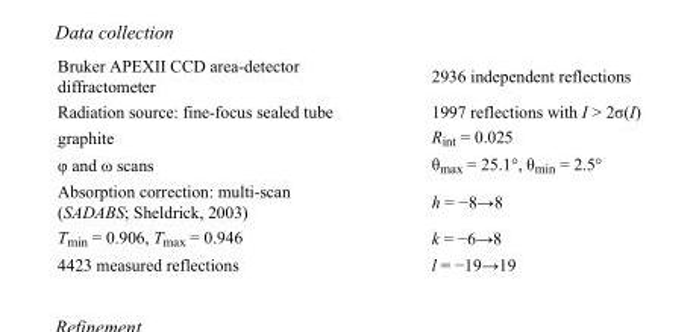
<table><tbody><tr><td>Bruker APEXII CCD area-detector diffractometer</td><td>2936 independent reflections</td></tr><tr><td>Radiation source: fine-focus sealed tube</td><td>1997 reflections with I &gt; 2σ(I)</td></tr><tr><td>graphite</td><td>R<sub>int</sub> = 0.025</td></tr><tr><td>φ and ω scans</td><td>θ<sub>max</sub> = 25.1°, θ<sub>min</sub> = 2.5°</td></tr><tr><td>Absorption correction: multi-scan (SADABS; Sheldrick, 2003)</td><td>h = −8→8</td></tr><tr><td>T<sub>min</sub> = 0.906, T<sub>max</sub> = 0.946</td><td>k = −6→8</td></tr><tr><td>4423 measured reflections</td><td>l = −19→19</td></tr></tbody></table>